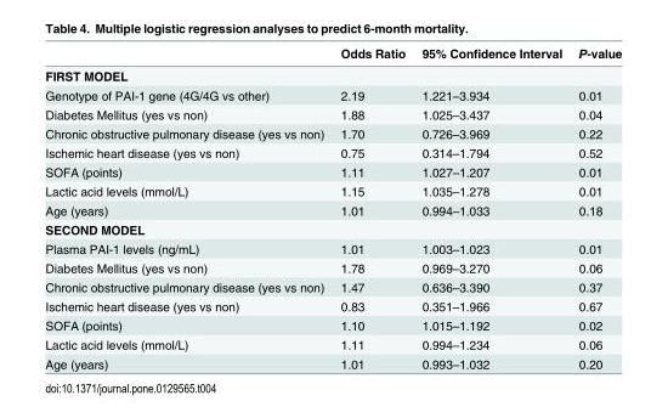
<table><thead><tr><td></td><td>Odds Ratio</td><td>95% Confidence Interval</td><td>P-value</td></tr></thead><tbody><tr><td colspan="4">FIRST MODEL</td></tr><tr><td>Genotype of PAI-1 gene (4G/4G vs other)</td><td>2.19</td><td>1.221–3.934</td><td>0.01</td></tr><tr><td>Diabetes Mellitus (yes vs non)</td><td>1.88</td><td>1.025–3.437</td><td>0.04</td></tr><tr><td>Chronic obstructive pulmonary disease (yes vs non)</td><td>1.70</td><td>0.726–3.969</td><td>0.22</td></tr><tr><td>Ischemic heart disease (yes vs non)</td><td>0.75</td><td>0.314–1.794</td><td>0.52</td></tr><tr><td>SOFA (points)</td><td>1.11</td><td>1.027–1.207</td><td>0.01</td></tr><tr><td>Lactic acid levels (mmol/L)</td><td>1.15</td><td>1.035–1.278</td><td>0.01</td></tr><tr><td>Age (years)</td><td>1.01</td><td>0.994–1.033</td><td>0.18</td></tr><tr><td colspan="4">SECOND MODEL</td></tr><tr><td>Plasma PAI-1 levels (ng/mL)</td><td>1.01</td><td>1.003–1.023</td><td>0.01</td></tr><tr><td>Diabetes Mellitus (yes vs non)</td><td>1.78</td><td>0.969–3.270</td><td>0.06</td></tr><tr><td>Chronic obstructive pulmonary disease (yes vs non)</td><td>1.47</td><td>0.636–3.390</td><td>0.37</td></tr><tr><td>Ischemic heart disease (yes vs non)</td><td>0.83</td><td>0.351–1.966</td><td>0.67</td></tr><tr><td>SOFA (points)</td><td>1.10</td><td>1.015–1.192</td><td>0.02</td></tr><tr><td>Lactic acid levels (mmol/L)</td><td>1.11</td><td>0.994–1.234</td><td>0.06</td></tr><tr><td>Age (years)</td><td>1.01</td><td>0.993–1.032</td><td>0.20</td></tr></tbody></table>